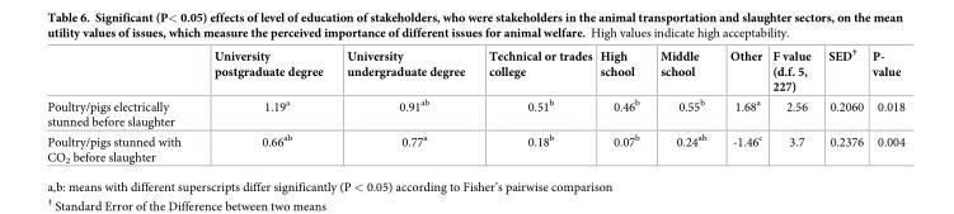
<table><thead><tr><td></td><td>University postgraduate degree</td><td>University undergraduate degree</td><td>Technical or trades college</td><td>High school</td><td>Middle school</td><td>Other</td><td>F value (d.f. 5, 227)</td><td>SED<sup>†</sup></td><td>P- value</td></tr></thead><tbody><tr><td>Poultry/pigs electrically stunned before slaughter</td><td>1.19<sup>a</sup></td><td>0.91<sup>ab</sup></td><td>0.51<sup>b</sup></td><td>0.46<sup>b</sup></td><td>0.55<sup>b</sup></td><td>1.68<sup>a</sup></td><td>2.56</td><td>0.2060</td><td>0.018</td></tr><tr><td>Poultry/pigs stunned with CO<sub>2</sub> before slaughter</td><td>0.66<sup>ab</sup></td><td>0.77<sup>a</sup></td><td>0.18<sup>b</sup></td><td>0.07<sup>b</sup></td><td>0.24<sup>ab</sup></td><td>-1.46<sup>c</sup></td><td>3.7</td><td>0.2376</td><td>0.004</td></tr></tbody></table>